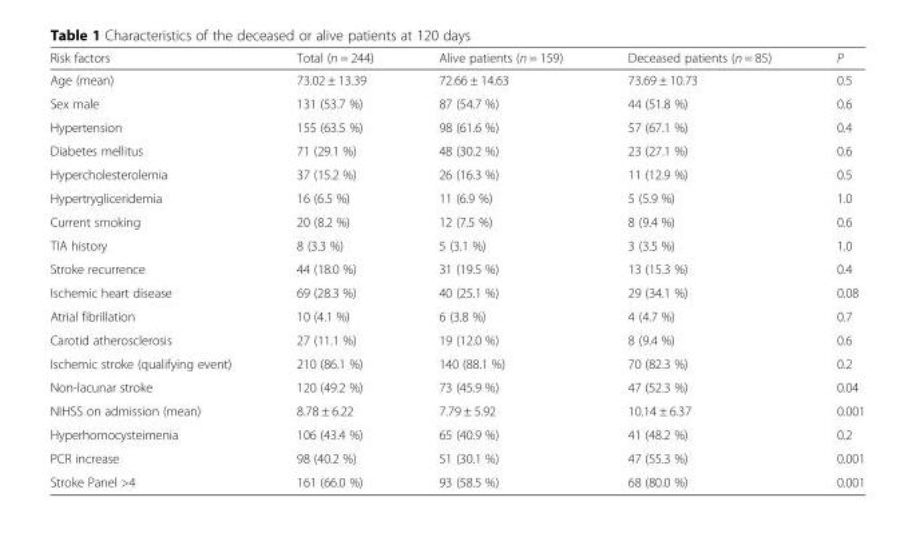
<table><thead><tr><td>Risk factors</td><td>Total (n = 244)</td><td>Alive patients (n = 159)</td><td>Deceased patients (n = 85)</td><td>P</td></tr></thead><tbody><tr><td>Age (mean)</td><td>73.02 ± 13.39</td><td>72.66 ± 14.63</td><td>73.69 ± 10.73</td><td>0.5</td></tr><tr><td>Sex male</td><td>131 (53.7 %)</td><td>87 (54.7 %)</td><td>44 (51.8 %)</td><td>0.6</td></tr><tr><td>Hypertension</td><td>155 (63.5 %)</td><td>98 (61.6 %)</td><td>57 (67.1 %)</td><td>0.4</td></tr><tr><td>Diabetes mellitus</td><td>71 (29.1 %)</td><td>48 (30.2 %)</td><td>23 (27.1 %)</td><td>0.6</td></tr><tr><td>Hypercholesterolemia</td><td>37 (15.2 %)</td><td>26 (16.3 %)</td><td>11 (12.9 %)</td><td>0.5</td></tr><tr><td>Hypertrygliceridemia</td><td>16 (6.5 %)</td><td>11 (6.9 %)</td><td>5 (5.9 %)</td><td>1.0</td></tr><tr><td>Current smoking</td><td>20 (8.2 %)</td><td>12 (7.5 %)</td><td>8 (9.4 %)</td><td>0.6</td></tr><tr><td>TIA history</td><td>8 (3.3 %)</td><td>5 (3.1 %)</td><td>3 (3.5 %)</td><td>1.0</td></tr><tr><td>Stroke recurrence</td><td>44 (18.0 %)</td><td>31 (19.5 %)</td><td>13 (15.3 %)</td><td>0.4</td></tr><tr><td>Ischemic heart disease</td><td>69 (28.3 %)</td><td>40 (25.1 %)</td><td>29 (34.1 %)</td><td>0.08</td></tr><tr><td>Atrial fibrillation</td><td>10 (4.1 %)</td><td>6 (3.8 %)</td><td>4 (4.7 %)</td><td>0.7</td></tr><tr><td>Carotid atherosclerosis</td><td>27 (11.1 %)</td><td>19 (12.0 %)</td><td>8 (9.4 %)</td><td>0.6</td></tr><tr><td>Ischemic stroke (qualifying event)</td><td>210 (86.1 %)</td><td>140 (88.1 %)</td><td>70 (82.3 %)</td><td>0.2</td></tr><tr><td>Non-lacunar stroke</td><td>120 (49.2 %)</td><td>73 (45.9 %)</td><td>47 (52.3 %)</td><td>0.04</td></tr><tr><td>NIHSS on admission (mean)</td><td>8.78 ± 6.22</td><td>7.79 ± 5.92</td><td>10.14 ± 6.37</td><td>0.001</td></tr><tr><td>Hyperhomocysteimenia</td><td>106 (43.4 %)</td><td>65 (40.9 %)</td><td>41 (48.2 %)</td><td>0.2</td></tr><tr><td>PCR increase</td><td>98 (40.2 %)</td><td>51 (30.1 %)</td><td>47 (55.3 %)</td><td>0.001</td></tr><tr><td>Stroke Panel &gt;4</td><td>161 (66.0 %)</td><td>93 (58.5 %)</td><td>68 (80.0 %)</td><td>0.001</td></tr></tbody></table>